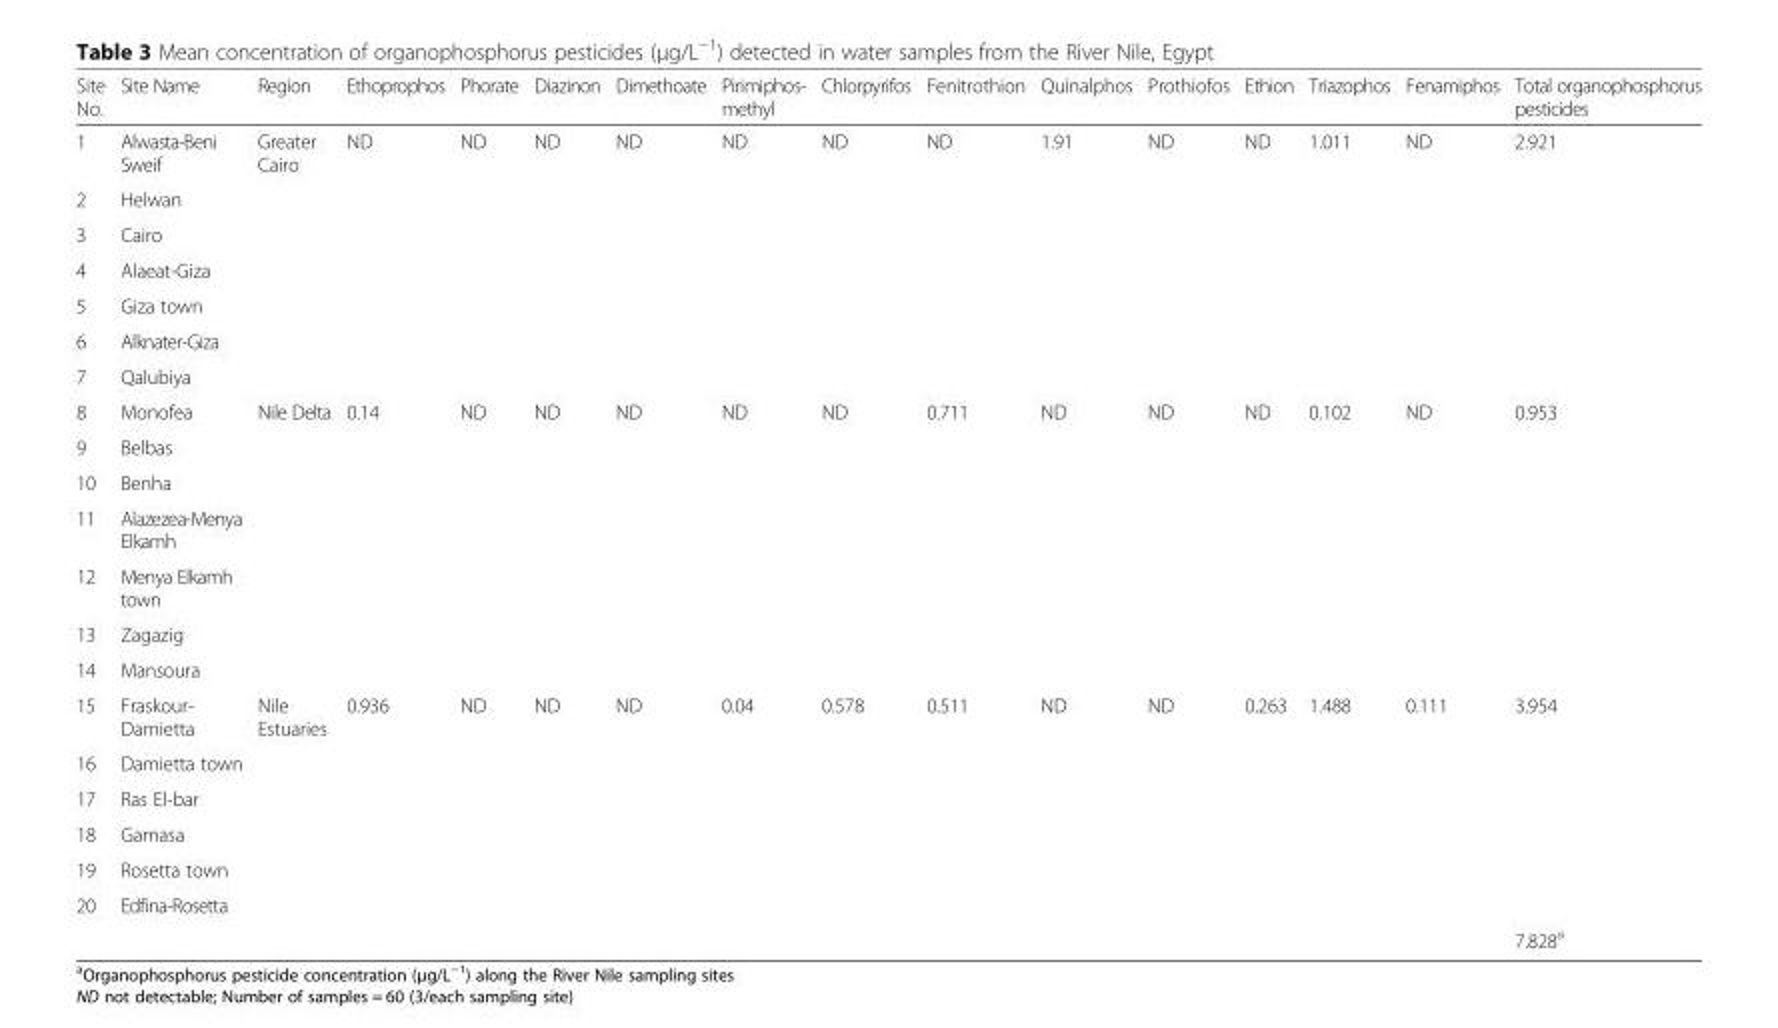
<table><thead><tr><td>Site No.</td><td>Site Name</td><td>Region</td><td>Ethoprophos</td><td>Phorate</td><td>Diazinon</td><td>Dimethoate</td><td>Pirimiphos- methyl</td><td>Chlorpyrifos</td><td>Fenitrothion</td><td>Quinalphos</td><td>Prothiofos</td><td>Ethion</td><td>Triazophos</td><td>Fenamiphos</td><td>Total organophosphorus pesticides</td></tr></thead><tbody><tr><td>1</td><td>Alwasta-Beni Sweif</td><td rowspan="7">Greater Cairo</td><td rowspan="7">ND</td><td rowspan="7">ND</td><td rowspan="7">ND</td><td rowspan="7">ND</td><td rowspan="7">ND</td><td rowspan="7">ND</td><td rowspan="7">ND</td><td rowspan="7">1.91</td><td rowspan="7">ND</td><td rowspan="7">ND</td><td rowspan="7">1.011</td><td rowspan="7">ND</td><td rowspan="7">2.921</td></tr><tr><td>2</td><td>Helwan</td></tr><tr><td>3</td><td>Cairo</td></tr><tr><td>4</td><td>Alaeat-Giza</td></tr><tr><td>5</td><td>Giza town</td></tr><tr><td>6</td><td>Alknater-Giza</td></tr><tr><td>7</td><td>Qalubiya</td></tr><tr><td>8</td><td>Monofea</td><td rowspan="7">Nile Delta</td><td rowspan="7">0.14</td><td rowspan="7">ND</td><td rowspan="7">ND</td><td rowspan="7">ND</td><td rowspan="7">ND</td><td rowspan="7">ND</td><td rowspan="7">0.711</td><td rowspan="7">ND</td><td rowspan="7">ND</td><td rowspan="7">ND</td><td rowspan="7">0.102</td><td rowspan="7">ND</td><td rowspan="7">0.953</td></tr><tr><td>9</td><td>Belbas</td></tr><tr><td>10</td><td>Benha</td></tr><tr><td>11</td><td>Alazezea-Menya Elkamh</td></tr><tr><td>12</td><td>Menya Elkamh town</td></tr><tr><td>13</td><td>Zagazig</td></tr><tr><td>14</td><td>Mansoura</td></tr><tr><td>15</td><td>Fraskour- Damietta</td><td rowspan="6">Nile Estuaries</td><td rowspan="6">0.936</td><td rowspan="6">ND</td><td rowspan="6">ND</td><td rowspan="6">ND</td><td rowspan="6">0.04</td><td rowspan="6">0.578</td><td rowspan="6">0.511</td><td rowspan="6">ND</td><td rowspan="6">ND</td><td rowspan="6">0.263</td><td rowspan="6">1.488</td><td rowspan="6">0.111</td><td rowspan="6">3.954</td></tr><tr><td>16</td><td>Damietta town</td></tr><tr><td>17</td><td>Ras El-bar</td></tr><tr><td>18</td><td>Gamasa</td></tr><tr><td>19</td><td>Rosetta town</td></tr><tr><td>20</td><td>Edfina-Rosetta</td></tr><tr><td colspan="15"></td><td>7.828<sup>a</sup></td></tr></tbody></table>